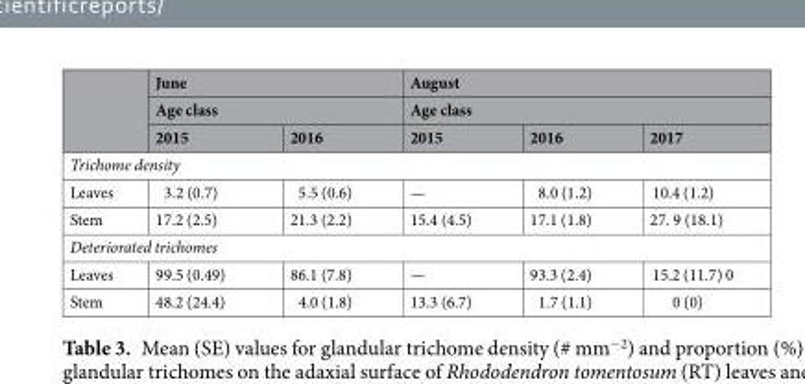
<table><thead><tr><td rowspan="3"></td><td rowspan="2" colspan="2">June Age class</td><td rowspan="2" colspan="3">August Age class</td></tr><tr></tr><tr><td>2015</td><td>2016</td><td>2015</td><td>2016</td><td>2017</td></tr></thead><tbody><tr><td colspan="6">Trichome density</td></tr><tr><td>Leaves</td><td>3.2 (0.7)</td><td>5.5 (0.6)</td><td>—</td><td>8.0 (1.2)</td><td>10.4 (1.2)</td></tr><tr><td>Stem</td><td>17.2 (2.5)</td><td>21.3 (2.2)</td><td>15.4 (4.5)</td><td>17.1 (1.8)</td><td>27. 9 (18.1)</td></tr><tr><td colspan="6">Deteriorated trichomes</td></tr><tr><td>Leaves</td><td>99.5 (0.49)</td><td>86.1 (7.8)</td><td>—</td><td>93.3 (2.4)</td><td>15.2 (11.7) 0</td></tr><tr><td>Stem</td><td>48.2 (24.4)</td><td>4.0 (1.8)</td><td>13.3 (6.7)</td><td>1.7 (1.1)</td><td>0 (0)</td></tr></tbody></table>